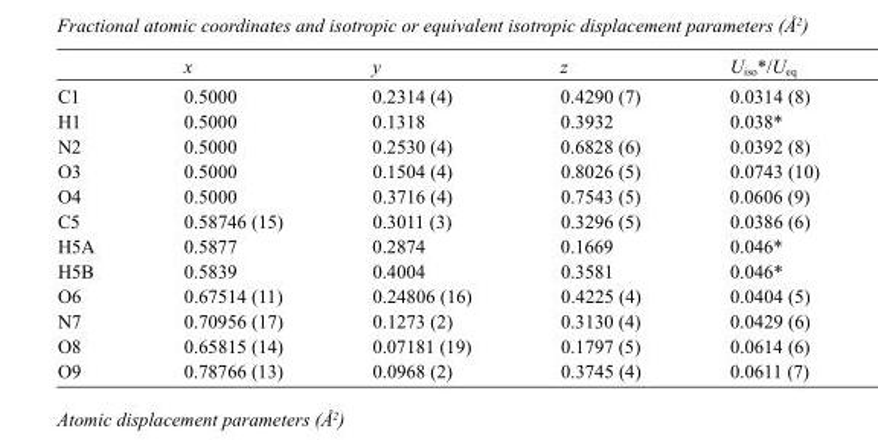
<table><thead><tr><td></td><td>x</td><td>y</td><td>z</td><td>U<sub>iso</sub>*/U<sub>eq</sub></td></tr></thead><tbody><tr><td>C1</td><td>0.5000</td><td>0.2314 (4)</td><td>0.4290 (7)</td><td>0.0314 (8)</td></tr><tr><td>H1</td><td>0.5000</td><td>0.1318</td><td>0.3932</td><td>0.038*</td></tr><tr><td>N2</td><td>0.5000</td><td>0.2530 (4)</td><td>0.6828 (6)</td><td>0.0392 (8)</td></tr><tr><td>O3</td><td>0.5000</td><td>0.1504 (4)</td><td>0.8026 (5)</td><td>0.0743 (10)</td></tr><tr><td>O4</td><td>0.5000</td><td>0.3716 (4)</td><td>0.7543 (5)</td><td>0.0606 (9)</td></tr><tr><td>C5</td><td>0.58746 (15)</td><td>0.3011 (3)</td><td>0.3296 (5)</td><td>0.0386 (6)</td></tr><tr><td>H5A</td><td>0.5877</td><td>0.2874</td><td>0.1669</td><td>0.046*</td></tr><tr><td>H5B</td><td>0.5839</td><td>0.4004</td><td>0.3581</td><td>0.046*</td></tr><tr><td>O6</td><td>0.67514 (11)</td><td>0.24806 (16)</td><td>0.4225 (4)</td><td>0.0404 (5)</td></tr><tr><td>N7</td><td>0.70956 (17)</td><td>0.1273 (2)</td><td>0.3130 (4)</td><td>0.0429 (6)</td></tr><tr><td>O8</td><td>0.65815 (14)</td><td>0.07181 (19)</td><td>0.1797 (5)</td><td>0.0614 (6)</td></tr><tr><td>O9</td><td>0.78766 (13)</td><td>0.0968 (2)</td><td>0.3745 (4)</td><td>0.0611 (7)</td></tr></tbody></table>